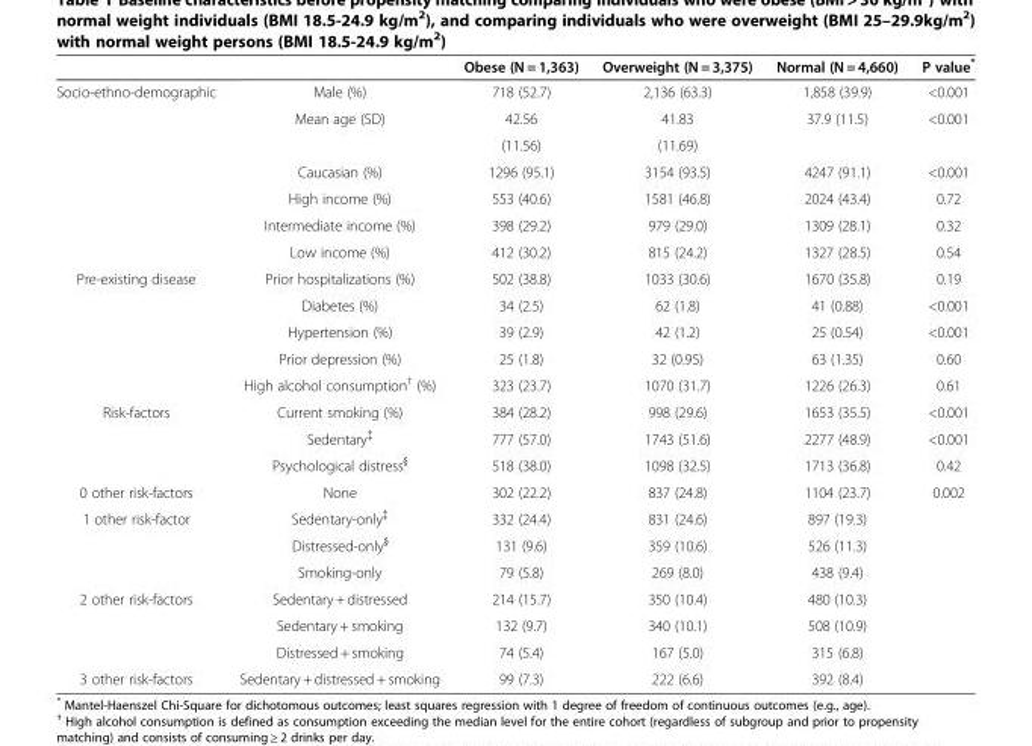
<table><thead><tr><td></td><td></td><td>Obese (N = 1,363)</td><td>Overweight (N = 3,375)</td><td>Normal (N = 4,660)</td><td>P value*</td></tr></thead><tbody><tr><td rowspan="7">Socio-ethno-demographic</td><td>Male (%)</td><td>718 (52.7)</td><td>2,136 (63.3)</td><td>1,858 (39.9)</td><td>&lt;0.001</td></tr><tr><td>Mean age (SD)</td><td>42.56</td><td>41.83</td><td>37.9 (11.5)</td><td>&lt;0.001</td></tr><tr><td></td><td>(11.56)</td><td>(11.69)</td><td></td><td></td></tr><tr><td>Caucasian (%)</td><td>1296 (95.1)</td><td>3154 (93.5)</td><td>4247 (91.1)</td><td>&lt;0.001</td></tr><tr><td>High income (%)</td><td>553 (40.6)</td><td>1581 (46.8)</td><td>2024 (43.4)</td><td>0.72</td></tr><tr><td>Intermediate income (%)</td><td>398 (29.2)</td><td>979 (29.0)</td><td>1309 (28.1)</td><td>0.32</td></tr><tr><td>Low income (%)</td><td>412 (30.2)</td><td>815 (24.2)</td><td>1327 (28.5)</td><td>0.54</td></tr><tr><td rowspan="5">Pre-existing disease</td><td>Prior hospitalizations (%)</td><td>502 (38.8)</td><td>1033 (30.6)</td><td>1670 (35.8)</td><td>0.19</td></tr><tr><td>Diabetes (%)</td><td>34 (2.5)</td><td>62 (1.8)</td><td>41 (0.88)</td><td>&lt;0.001</td></tr><tr><td>Hypertension (%)</td><td>39 (2.9)</td><td>42 (1.2)</td><td>25 (0.54)</td><td>&lt;0.001</td></tr><tr><td>Prior depression (%)</td><td>25 (1.8)</td><td>32 (0.95)</td><td>63 (1.35)</td><td>0.60</td></tr><tr><td>High alcohol consumption<sup>†</sup> (%)</td><td>323 (23.7)</td><td>1070 (31.7)</td><td>1226 (26.3)</td><td>0.61</td></tr><tr><td rowspan="3">Risk-factors</td><td>Current smoking (%)</td><td>384 (28.2)</td><td>998 (29.6)</td><td>1653 (35.5)</td><td>&lt;0.001</td></tr><tr><td>Sedentary<sup>‡</sup></td><td>777 (57.0)</td><td>1743 (51.6)</td><td>2277 (48.9)</td><td>&lt;0.001</td></tr><tr><td>Psychological distress<sup>§</sup></td><td>518 (38.0)</td><td>1098 (32.5)</td><td>1713 (36.8)</td><td>0.42</td></tr><tr><td>0 other risk-factors</td><td>None</td><td>302 (22.2)</td><td>837 (24.8)</td><td>1104 (23.7)</td><td>0.002</td></tr><tr><td rowspan="3">1 other risk-factor</td><td>Sedentary-only<sup>‡</sup></td><td>332 (24.4)</td><td>831 (24.6)</td><td>897 (19.3)</td><td></td></tr><tr><td>Distressed-only<sup>§</sup></td><td>131 (9.6)</td><td>359 (10.6)</td><td>526 (11.3)</td><td></td></tr><tr><td>Smoking-only</td><td>79 (5.8)</td><td>269 (8.0)</td><td>438 (9.4)</td><td></td></tr><tr><td rowspan="3">2 other risk-factors</td><td>Sedentary + distressed</td><td>214 (15.7)</td><td>350 (10.4)</td><td>480 (10.3)</td><td></td></tr><tr><td>Sedentary + smoking</td><td>132 (9.7)</td><td>340 (10.1)</td><td>508 (10.9)</td><td></td></tr><tr><td>Distressed + smoking</td><td>74 (5.4)</td><td>167 (5.0)</td><td>315 (6.8)</td><td></td></tr><tr><td>3 other risk-factors</td><td>Sedentary + distressed + smoking</td><td>99 (7.3)</td><td>222 (6.6)</td><td>392 (8.4)</td><td></td></tr></tbody></table>